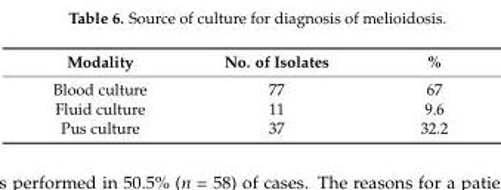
<table><thead><tr><td>Modality</td><td>No. of Isolates</td><td>%</td></tr></thead><tbody><tr><td>Blood culture</td><td>77</td><td>67</td></tr><tr><td>Fluid culture</td><td>11</td><td>9.6</td></tr><tr><td>Pus culture</td><td>37</td><td>32.2</td></tr></tbody></table>